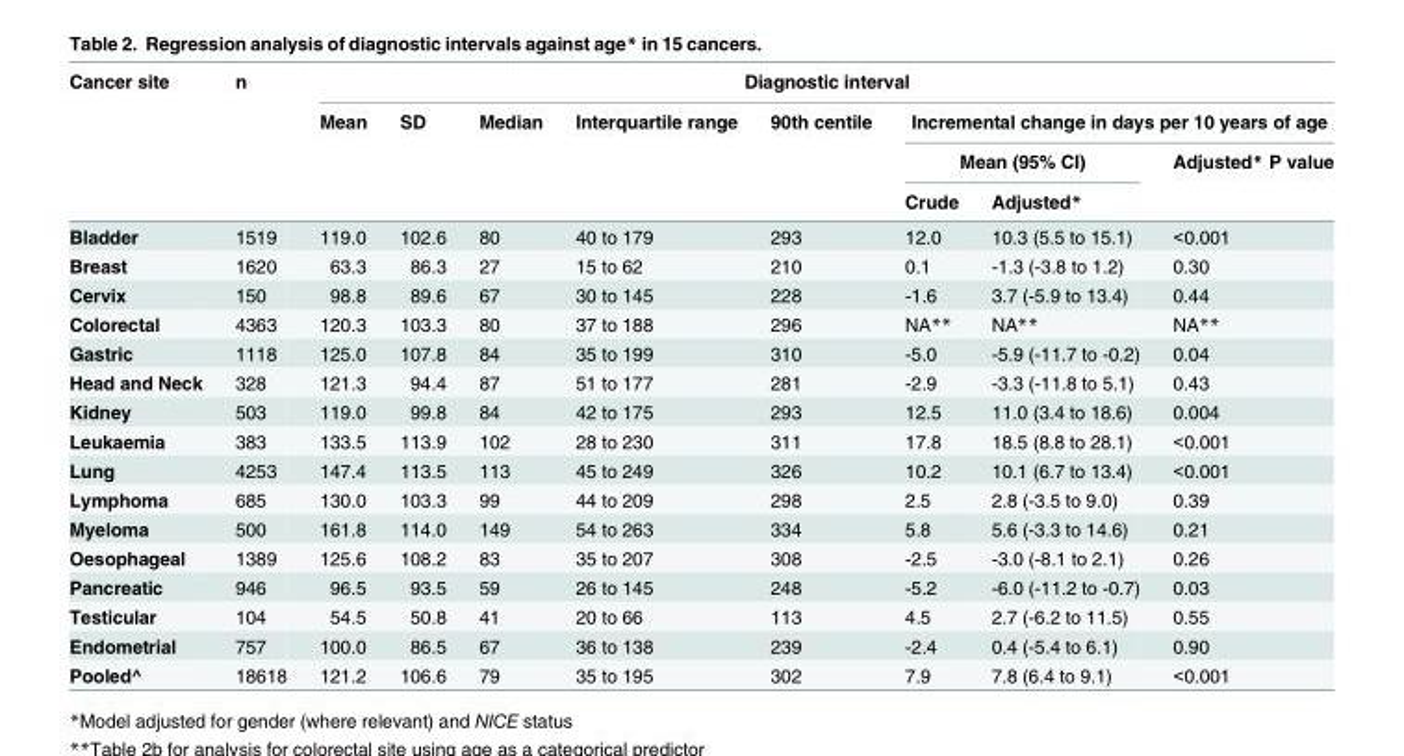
<table><thead><tr><td rowspan="4">Cancer site</td><td rowspan="4">n</td><td colspan="8">Diagnostic interval</td></tr><tr><td rowspan="3">Mean</td><td rowspan="3">SD</td><td rowspan="3">Median</td><td rowspan="3">Interquartile range</td><td rowspan="3">90th centile</td><td colspan="3">Incremental change in days per 10 years of age</td></tr><tr><td colspan="2">Mean (95% CI)</td><td rowspan="2">Adjusted* P value</td></tr><tr><td>Crude</td><td>Adjusted*</td></tr></thead><tbody><tr><td>Bladder</td><td>1519</td><td>119.0</td><td>102.6</td><td>80</td><td>40 to 179</td><td>293</td><td>12.0</td><td>10.3 (5.5 to 15.1)</td><td>&lt;0.001</td></tr><tr><td>Breast</td><td>1620</td><td>63.3</td><td>86.3</td><td>27</td><td>15 to 62</td><td>210</td><td>0.1</td><td>-1.3 (-3.8 to 1.2)</td><td>0.30</td></tr><tr><td>Cervix</td><td>150</td><td>98.8</td><td>89.6</td><td>67</td><td>30 to 145</td><td>228</td><td>-1.6</td><td>3.7 (-5.9 to 13.4)</td><td>0.44</td></tr><tr><td>Colorectal</td><td>4363</td><td>120.3</td><td>103.3</td><td>80</td><td>37 to 188</td><td>296</td><td>NA**</td><td>NA**</td><td>NA**</td></tr><tr><td>Gastric</td><td>1118</td><td>125.0</td><td>107.8</td><td>84</td><td>35 to 199</td><td>310</td><td>-5.0</td><td>-5.9 (-11.7 to -0.2)</td><td>0.04</td></tr><tr><td>Head and Neck</td><td>328</td><td>121.3</td><td>94.4</td><td>87</td><td>51 to 177</td><td>281</td><td>-2.9</td><td>-3.3 (-11.8 to 5.1)</td><td>0.43</td></tr><tr><td>Kidney</td><td>503</td><td>119.0</td><td>99.8</td><td>84</td><td>42 to 175</td><td>293</td><td>12.5</td><td>11.0 (3.4 to 18.6)</td><td>0.004</td></tr><tr><td>Leukaemia</td><td>383</td><td>133.5</td><td>113.9</td><td>102</td><td>28 to 230</td><td>311</td><td>17.8</td><td>18.5 (8.8 to 28.1)</td><td>&lt;0.001</td></tr><tr><td>Lung</td><td>4253</td><td>147.4</td><td>113.5</td><td>113</td><td>45 to 249</td><td>326</td><td>10.2</td><td>10.1 (6.7 to 13.4)</td><td>&lt;0.001</td></tr><tr><td>Lymphoma</td><td>685</td><td>130.0</td><td>103.3</td><td>99</td><td>44 to 209</td><td>298</td><td>2.5</td><td>2.8 (-3.5 to 9.0)</td><td>0.39</td></tr><tr><td>Myeloma</td><td>500</td><td>161.8</td><td>114.0</td><td>149</td><td>54 to 263</td><td>334</td><td>5.8</td><td>5.6 (-3.3 to 14.6)</td><td>0.21</td></tr><tr><td>Oesophageal</td><td>1389</td><td>125.6</td><td>108.2</td><td>83</td><td>35 to 207</td><td>308</td><td>-2.5</td><td>-3.0 (-8.1 to 2.1)</td><td>0.26</td></tr><tr><td>Pancreatic</td><td>946</td><td>96.5</td><td>93.5</td><td>59</td><td>26 to 145</td><td>248</td><td>-5.2</td><td>-6.0 (-11.2 to -0.7)</td><td>0.03</td></tr><tr><td>Testicular</td><td>104</td><td>54.5</td><td>50.8</td><td>41</td><td>20 to 66</td><td>113</td><td>4.5</td><td>2.7 (-6.2 to 11.5)</td><td>0.55</td></tr><tr><td>Endometrial</td><td>757</td><td>100.0</td><td>86.5</td><td>67</td><td>36 to 138</td><td>239</td><td>-2.4</td><td>0.4 (-5.4 to 6.1)</td><td>0.90</td></tr><tr><td>Pooled^</td><td>18618</td><td>121.2</td><td>106.6</td><td>79</td><td>35 to 195</td><td>302</td><td>7.9</td><td>7.8 (6.4 to 9.1)</td><td>&lt;0.001</td></tr></tbody></table>